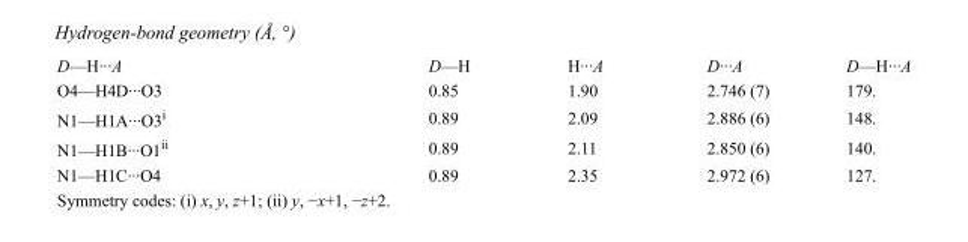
<table><tbody><tr><td>D—H···A</td><td>D—H</td><td>H···A</td><td>D···A</td><td>D—H···A</td></tr><tr><td>O4—H4D···O3</td><td>0.85</td><td>1.90</td><td>2.746 (7)</td><td>179.</td></tr><tr><td>N1—H1A···O3<sup>i</sup></td><td>0.89</td><td>2.09</td><td>2.886 (6)</td><td>148.</td></tr><tr><td>N1—H1B···O1<sup>ii</sup></td><td>0.89</td><td>2.11</td><td>2.850 (6)</td><td>140.</td></tr><tr><td>N1—H1C···O4</td><td>0.89</td><td>2.35</td><td>2.972 (6)</td><td>127.</td></tr></tbody></table>